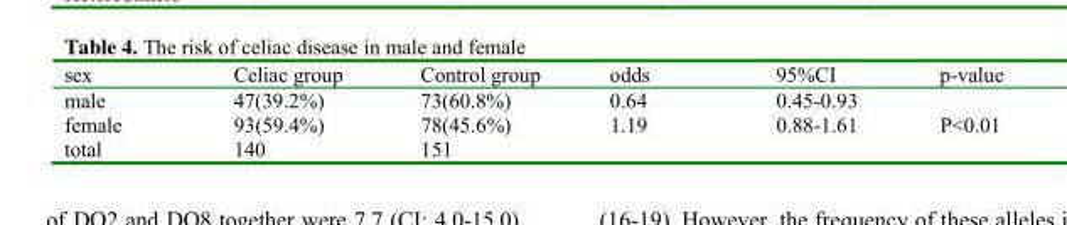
<table><thead><tr><td>sex</td><td>Celiac group</td><td>Control group</td><td>odds</td><td>95%CI</td><td>p-value</td></tr></thead><tbody><tr><td>male</td><td>47(39.2%)</td><td>73(60.8%)</td><td>0.64</td><td>0.45-0.93</td><td rowspan="2">P&lt;0.01</td></tr><tr><td>female</td><td>93(59.4%)</td><td>78(45.6%)</td><td>1.19</td><td>0.88-1.61</td></tr><tr><td>total</td><td>140</td><td>151</td><td></td><td></td><td></td></tr></tbody></table>